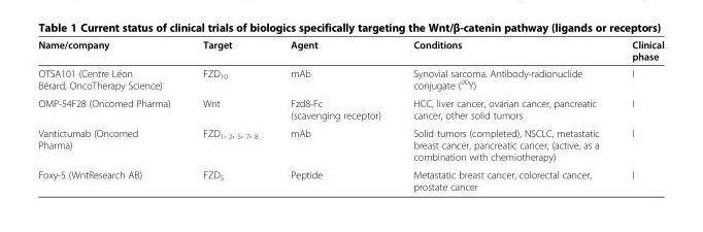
<table><thead><tr><td>Name/company</td><td>Target</td><td>Agent</td><td>Conditions</td><td>Clinical phase</td></tr></thead><tbody><tr><td>OTSA101 (Centre Léon Bérard, OncoTherapy Science)</td><td>FZD<sub>10</sub></td><td>mAb</td><td>Synovial sarcoma. Antibody-radionuclide conjugate (<sup>90</sup>Y)</td><td>I</td></tr><tr><td>OMP-54F28 (Oncomed Pharma)</td><td>Wnt</td><td>Fzd8-Fc (scavenging receptor)</td><td>HCC, liver cancer, ovarian cancer, pancreatic cancer, other solid tumors</td><td>I</td></tr><tr><td>Vantictumab (Oncomed Pharma)</td><td>FZD<sub>1</sub>, <sub>2</sub>, <sub>5</sub>, <sub>7</sub>, <sub>8</sub></td><td>mAb</td><td>Solid tumors (completed), NSCLC, metastatic breast cancer, pancreatic cancer, (active, as a combination with chemiotherapy)</td><td>I</td></tr><tr><td>Foxy-5 (WntResearch AB)</td><td>FZD<sub>5</sub></td><td>Peptide</td><td>Metastatic breast cancer, colorectal cancer, prostate cancer</td><td>I</td></tr></tbody></table>